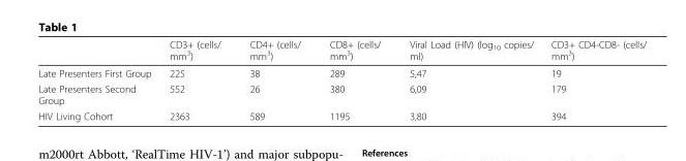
<table><thead><tr><td></td><td>CD3+ (cells/ mm<sup>3</sup>)</td><td>CD4+ (cells/ mm<sup>3</sup>)</td><td>CD8+ (cells/ mm<sup>3</sup>)</td><td>Viral Load (HIV) (log10 copies/ ml)</td><td>CD3+ CD4-CD8- (cells/ mm<sup>3</sup>)</td></tr></thead><tbody><tr><td>Late Presenters First Group</td><td>225</td><td>38</td><td>289</td><td>5,47</td><td>19</td></tr><tr><td>Late Presenters Second Group</td><td>552</td><td>26</td><td>380</td><td>6,09</td><td>179</td></tr><tr><td>HIV Living Cohort</td><td>2363</td><td>589</td><td>1195</td><td>3,80</td><td>394</td></tr></tbody></table>